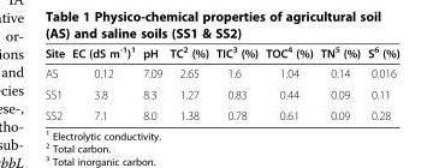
<table><thead><tr><td>Site</td><td>EC (dS m<sup>-1</sup>)<sup>1</sup></td><td>pH</td><td>TC<sup>2</sup> (%)</td><td>TIC<sup>3</sup> (%)</td><td>TOC<sup>4</sup> (%)</td><td>TN<sup>5</sup> (%)</td><td>S<sup>6</sup> (%)</td></tr></thead><tbody><tr><td>AS</td><td>0.12</td><td>7.09</td><td>2.65</td><td>1.6</td><td>1.04</td><td>0.14</td><td>0.016</td></tr><tr><td>SS1</td><td>3.8</td><td>8.3</td><td>1.27</td><td>0.83</td><td>0.44</td><td>0.09</td><td>0.11</td></tr><tr><td>SS2</td><td>7.1</td><td>8.0</td><td>1.38</td><td>0.78</td><td>0.61</td><td>0.09</td><td>0.28</td></tr></tbody></table>